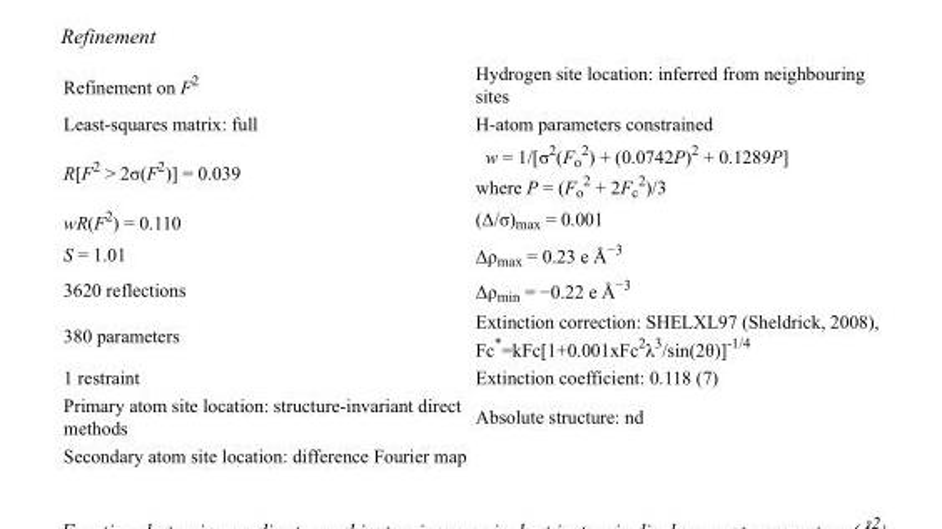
<table><tbody><tr><td>Refinement on F<sup>2</sup></td><td>Hydrogen site location: inferred from neighbouring sites</td></tr><tr><td>Least-squares matrix: full</td><td>H-atom parameters constrained</td></tr><tr><td>R[F<sup>2</sup> &gt; 2σ(F<sup>2</sup>)] = 0.039</td><td>w = 1/[σ<sup>2</sup>(F<sub>o</sub> <sup>2</sup>) + (0.0742P)<sup>2</sup> + 0.1289P] where P = (F<sub>o</sub> <sup>2</sup> + 2F<sub>c</sub> <sup>2</sup>)/3</td></tr><tr><td>wR(F<sup>2</sup>) = 0.110</td><td>(Δ/σ)<sub>max</sub> = 0.001</td></tr><tr><td>S = 1.01</td><td>Δρ<sub>max</sub> = 0.23 e Å<sup>−3</sup></td></tr><tr><td>3620 reflections</td><td>Δρ<sub>min</sub> = −0.22 e Å<sup>−3</sup></td></tr><tr><td>380 parameters</td><td>Extinction correction: SHELXL97 (Sheldrick, 2008), Fc*=kFc[1+0.001xFc<sup>2</sup>λ<sup>3</sup>/sin(2θ)]<sup>-1/4</sup></td></tr><tr><td>1 restraint</td><td>Extinction coefficient: 0.118 (7)</td></tr><tr><td>Primary atom site location: structure-invariant direct methods</td><td>Absolute structure: nd</td></tr><tr><td>Secondary atom site location: difference Fourier map</td><td></td></tr></tbody></table>